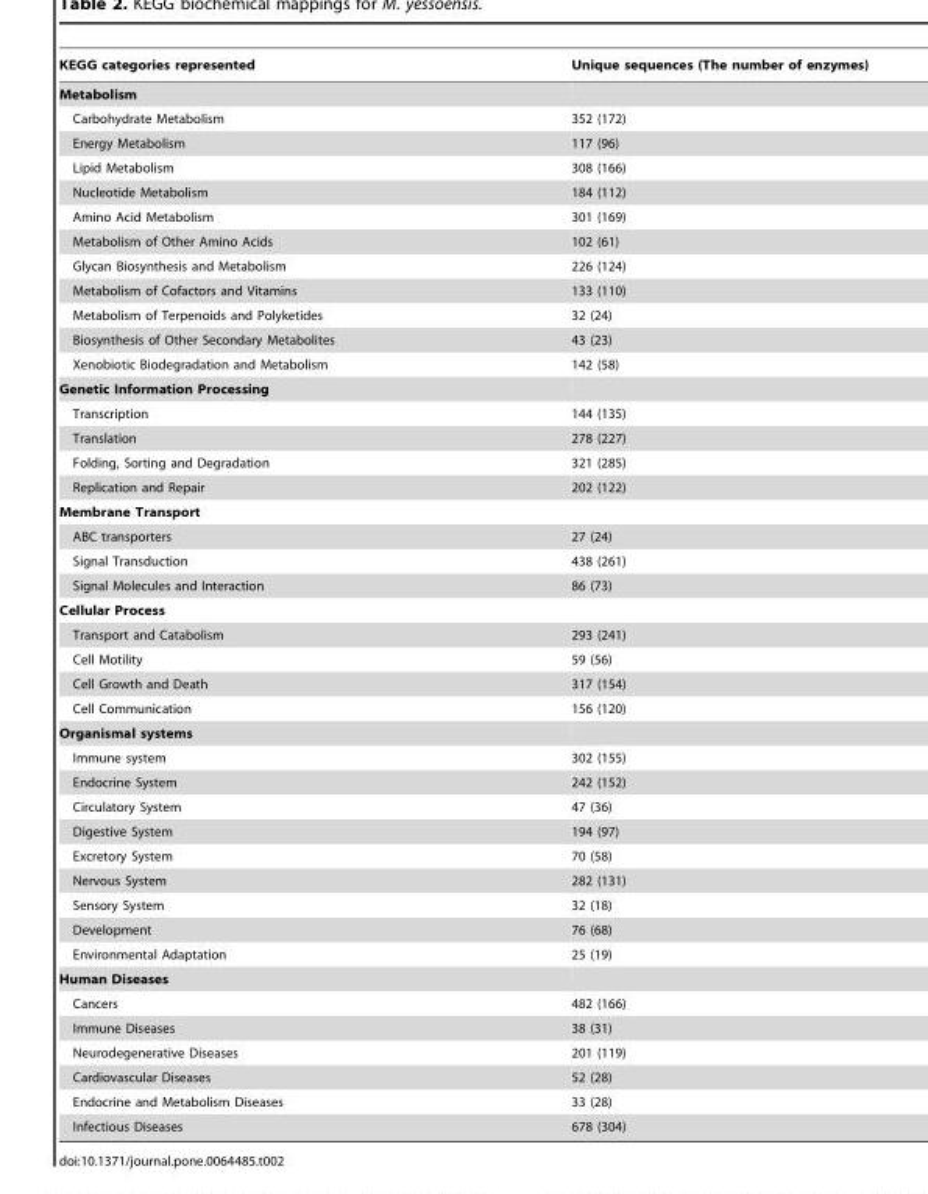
<table><thead><tr><td>KEGG categories represented</td><td>Unique sequences (The number of enzymes)</td></tr></thead><tbody><tr><td colspan="2">Metabolism</td></tr><tr><td>Carbohydrate Metabolism</td><td>352 (172)</td></tr><tr><td>Energy Metabolism</td><td>117 (96)</td></tr><tr><td>Lipid Metabolism</td><td>308 (166)</td></tr><tr><td>Nucleotide Metabolism</td><td>184 (112)</td></tr><tr><td>Amino Acid Metabolism</td><td>301 (169)</td></tr><tr><td>Metabolism of Other Amino Acids</td><td>102 (61)</td></tr><tr><td>Glycan Biosynthesis and Metabolism</td><td>226 (124)</td></tr><tr><td>Metabolism of Cofactors and Vitamins</td><td>133 (110)</td></tr><tr><td>Metabolism of Terpenoids and Polyketides</td><td>32 (24)</td></tr><tr><td>Biosynthesis of Other Secondary Metabolites</td><td>43 (23)</td></tr><tr><td>Xenobiotic Biodegradation and Metabolism</td><td>142 (58)</td></tr><tr><td colspan="2">Genetic Information Processing</td></tr><tr><td>Transcription</td><td>144 (135)</td></tr><tr><td>Translation</td><td>278 (227)</td></tr><tr><td>Folding, Sorting and Degradation</td><td>321 (285)</td></tr><tr><td>Replication and Repair</td><td>202 (122)</td></tr><tr><td colspan="2">Membrane Transport</td></tr><tr><td>ABC transporters</td><td>27 (24)</td></tr><tr><td>Signal Transduction</td><td>438 (261)</td></tr><tr><td>Signal Molecules and Interaction</td><td>86 (73)</td></tr><tr><td colspan="2">Cellular Process</td></tr><tr><td>Transport and Catabolism</td><td>293 (241)</td></tr><tr><td>Cell Motility</td><td>59 (56)</td></tr><tr><td>Cell Growth and Death</td><td>317 (154)</td></tr><tr><td>Cell Communication</td><td>156 (120)</td></tr><tr><td colspan="2">Organismal systems</td></tr><tr><td>Immune system</td><td>302 (155)</td></tr><tr><td>Endocrine System</td><td>242 (152)</td></tr><tr><td>Circulatory System</td><td>47 (36)</td></tr><tr><td>Digestive System</td><td>194 (97)</td></tr><tr><td>Excretory System</td><td>70 (58)</td></tr><tr><td>Nervous System</td><td>282 (131)</td></tr><tr><td>Sensory System</td><td>32 (18)</td></tr><tr><td>Development</td><td>76 (68)</td></tr><tr><td>Environmental Adaptation</td><td>25 (19)</td></tr><tr><td colspan="2">Human Diseases</td></tr><tr><td>Cancers</td><td>482 (166)</td></tr><tr><td>Immune Diseases</td><td>38 (31)</td></tr><tr><td>Neurodegenerative Diseases</td><td>201 (119)</td></tr><tr><td>Cardiovascular Diseases</td><td>52 (28)</td></tr><tr><td>Endocrine and Metabolism Diseases</td><td>33 (28)</td></tr><tr><td>Infectious Diseases</td><td>678 (304)</td></tr></tbody></table>